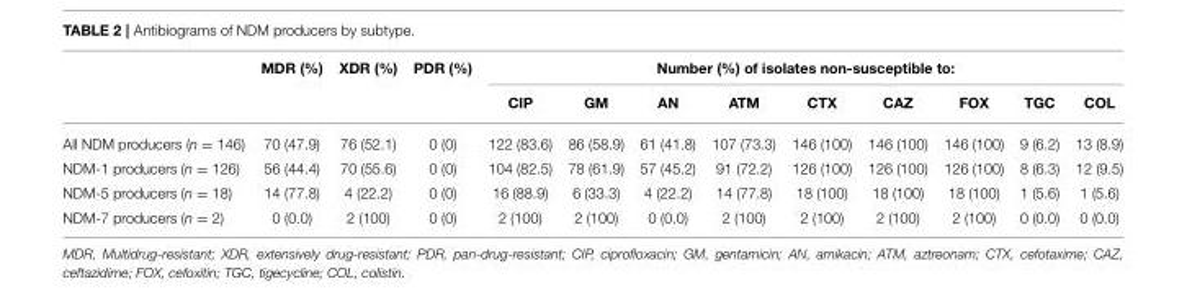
<table><thead><tr><td rowspan="2"></td><td rowspan="2">MDR (%)</td><td rowspan="2">XDR (%)</td><td rowspan="2">PDR (%)</td><td colspan="9">Number (%) of isolates non-susceptible to:</td></tr><tr><td>CIP</td><td>GM</td><td>AN</td><td>ATM</td><td>CTX</td><td>CAZ</td><td>FOX</td><td>TGC</td><td>COL</td></tr></thead><tbody><tr><td>All NDM producers (n = 146)</td><td>70 (47.9)</td><td>76 (52.1)</td><td>0 (0)</td><td>122 (83.6)</td><td>86 (58.9)</td><td>61 (41.8)</td><td>107 (73.3)</td><td>146 (100)</td><td>146 (100)</td><td>146 (100)</td><td>9 (6.2)</td><td>13 (8.9)</td></tr><tr><td>NDM-1 producers (n = 126)</td><td>56 (44.4)</td><td>70 (55.6)</td><td>0 (0)</td><td>104 (82.5)</td><td>78 (61.9)</td><td>57 (45.2)</td><td>91 (72.2)</td><td>126 (100)</td><td>126 (100)</td><td>126 (100)</td><td>8 (6.3)</td><td>12 (9.5)</td></tr><tr><td>NDM-5 producers (n = 18)</td><td>14 (77.8)</td><td>4 (22.2)</td><td>0 (0)</td><td>16 (88.9)</td><td>6 (33.3)</td><td>4 (22.2)</td><td>14 (77.8)</td><td>18 (100)</td><td>18 (100)</td><td>18 (100)</td><td>1 (5.6)</td><td>1 (5.6)</td></tr><tr><td>NDM-7 producers (n = 2)</td><td>0 (0.0)</td><td>2 (100)</td><td>0 (0)</td><td>2 (100)</td><td>2 (100)</td><td>0 (0.0)</td><td>2 (100)</td><td>2 (100)</td><td>2 (100)</td><td>2 (100)</td><td>0 (0.0)</td><td>0 (0.0)</td></tr></tbody></table>